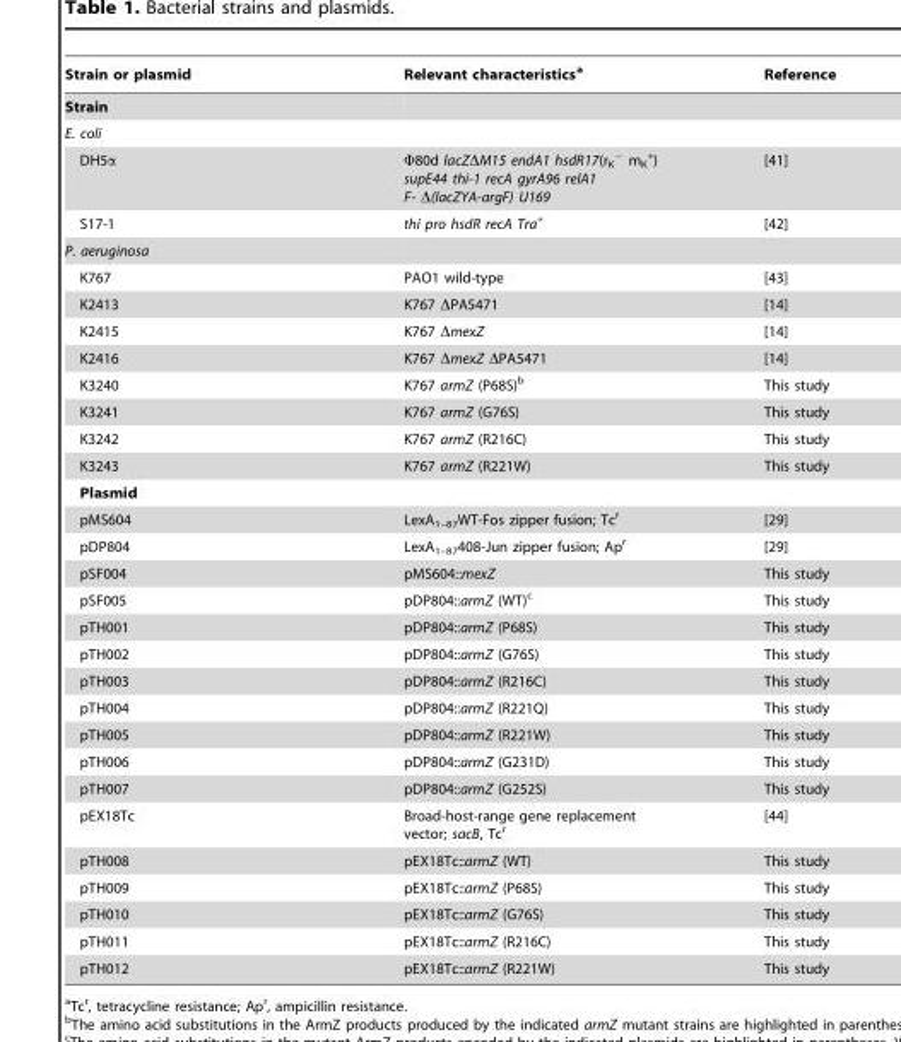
<table><thead><tr><td>Strain or plasmid</td><td>Relevant characteristics<sup>a</sup></td><td>Reference</td></tr></thead><tbody><tr><td colspan="3">Strain</td></tr><tr><td colspan="3">E. coli</td></tr><tr><td>DH5α</td><td>Φ80d lacZΔM15 endA1 hsdR17(r<sub>K</sub> <sup>−</sup> m<sub>K</sub> <sup>+</sup>) supE44 thi-1 recA gyrA96 relA1 F- Δ(lacZYA-argF) U169</td><td>[41]</td></tr><tr><td>S17-1</td><td>thi pro hsdR recA Tra<sup>+</sup></td><td>[42]</td></tr><tr><td colspan="3">P. aeruginosa</td></tr><tr><td>K767</td><td>PAO1 wild-type</td><td>[43]</td></tr><tr><td>K2413</td><td>K767 ΔPA5471</td><td>[14]</td></tr><tr><td>K2415</td><td>K767 ΔmexZ</td><td>[14]</td></tr><tr><td>K2416</td><td>K767 ΔmexZ ΔPA5471</td><td>[14]</td></tr><tr><td>K3240</td><td>K767 armZ (P68S)<sup>b</sup></td><td>This study</td></tr><tr><td>K3241</td><td>K767 armZ (G76S)</td><td>This study</td></tr><tr><td>K3242</td><td>K767 armZ (R216C)</td><td>This study</td></tr><tr><td>K3243</td><td>K767 armZ (R221W)</td><td>This study</td></tr><tr><td colspan="3">Plasmid</td></tr><tr><td>pMS604</td><td>LexA<sub>1–87</sub>WT-Fos zipper fusion; Tc<sup>r</sup></td><td>[29]</td></tr><tr><td>pDP804</td><td>LexA<sub>1–87</sub>408-Jun zipper fusion; Ap<sup>r</sup></td><td>[29]</td></tr><tr><td>pSF004</td><td>pMS604::mexZ</td><td>This study</td></tr><tr><td>pSF005</td><td>pDP804::armZ (WT)<sup>c</sup></td><td>This study</td></tr><tr><td>pTH001</td><td>pDP804::armZ (P68S)</td><td>This study</td></tr><tr><td>pTH002</td><td>pDP804::armZ (G76S)</td><td>This study</td></tr><tr><td>pTH003</td><td>pDP804::armZ (R216C)</td><td>This study</td></tr><tr><td>pTH004</td><td>pDP804::armZ (R221Q)</td><td>This study</td></tr><tr><td>pTH005</td><td>pDP804::armZ (R221W)</td><td>This study</td></tr><tr><td>pTH006</td><td>pDP804::armZ (G231D)</td><td>This study</td></tr><tr><td>pTH007</td><td>pDP804::armZ (G252S)</td><td>This study</td></tr><tr><td>pEX18Tc</td><td>Broad-host-range gene replacement vector; sacB, Tc<sup>r</sup></td><td>[44]</td></tr><tr><td>pTH008</td><td>pEX18Tc::armZ (WT)</td><td>This study</td></tr><tr><td>pTH009</td><td>pEX18Tc::armZ (P68S)</td><td>This study</td></tr><tr><td>pTH010</td><td>pEX18Tc::armZ (G76S)</td><td>This study</td></tr><tr><td>pTH011</td><td>pEX18Tc::armZ (R216C)</td><td>This study</td></tr><tr><td>pTH012</td><td>pEX18Tc::armZ (R221W)</td><td>This study</td></tr></tbody></table>